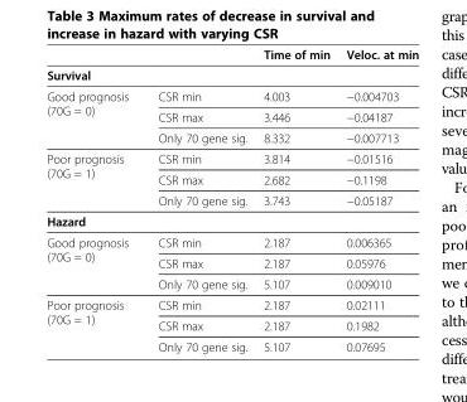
<table><thead><tr><td></td><td></td><td>Time of min</td><td>Veloc. at min</td></tr></thead><tbody><tr><td colspan="4">Survival</td></tr><tr><td rowspan="3">Good prognosis (70G = 0)</td><td>CSR min</td><td>4.003</td><td>−0.004703</td></tr><tr><td>CSR max</td><td>3.446</td><td>−0.04187</td></tr><tr><td>Only 70 gene sig.</td><td>8.332</td><td>−0.007713</td></tr><tr><td rowspan="3">Poor prognosis (70G = 1)</td><td>CSR min</td><td>3.814</td><td>−0.01516</td></tr><tr><td>CSR max</td><td>2.682</td><td>−0.1198</td></tr><tr><td>Only 70 gene sig.</td><td>3.743</td><td>−0.05187</td></tr><tr><td colspan="4">Hazard</td></tr><tr><td rowspan="3">Good prognosis (70G = 0)</td><td>CSR min</td><td>2.187</td><td>0.006365</td></tr><tr><td>CSR max</td><td>2.187</td><td>0.05976</td></tr><tr><td>Only 70 gene sig.</td><td>5.107</td><td>0.009010</td></tr><tr><td rowspan="3">Poor prognosis (70G = 1)</td><td>CSR min</td><td>2.187</td><td>0.02111</td></tr><tr><td>CSR max</td><td>2.187</td><td>0.1982</td></tr><tr><td>Only 70 gene sig.</td><td>5.107</td><td>0.07695</td></tr></tbody></table>